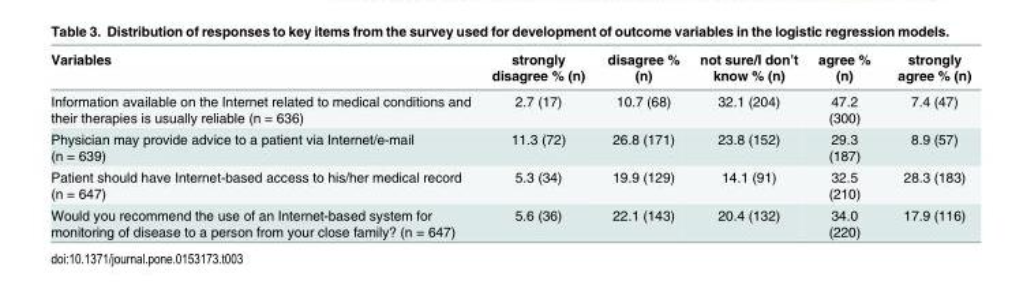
<table><thead><tr><td>Variables</td><td>strongly disagree % (n)</td><td>disagree % (n)</td><td>not sure/I don’t know % (n)</td><td>agree % (n)</td><td>strongly agree % (n)</td></tr></thead><tbody><tr><td>Information available on the Internet related to medical conditions and their therapies is usually reliable (n = 636)</td><td>2.7 (17)</td><td>10.7 (68)</td><td>32.1 (204)</td><td>47.2 (300)</td><td>7.4 (47)</td></tr><tr><td>Physician may provide advice to a patient via Internet/e-mail (n = 639)</td><td>11.3 (72)</td><td>26.8 (171)</td><td>23.8 (152)</td><td>29.3 (187)</td><td>8.9 (57)</td></tr><tr><td>Patient should have Internet-based access to his/her medical record (n = 647)</td><td>5.3 (34)</td><td>19.9 (129)</td><td>14.1 (91)</td><td>32.5 (210)</td><td>28.3 (183)</td></tr><tr><td>Would you recommend the use of an Internet-based system for monitoring of disease to a person from your close family? (n = 647)</td><td>5.6 (36)</td><td>22.1 (143)</td><td>20.4 (132)</td><td>34.0 (220)</td><td>17.9 (116)</td></tr></tbody></table>